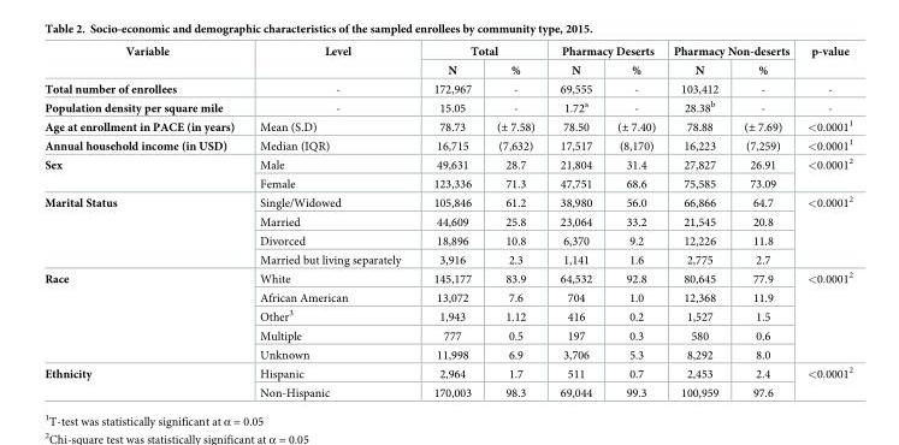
<table><thead><tr><td rowspan="2">Variable</td><td rowspan="2">Level</td><td colspan="2">Total</td><td colspan="2">Pharmacy Deserts</td><td colspan="2">Pharmacy Non-deserts</td><td rowspan="2">p-value</td></tr><tr><td>N</td><td>%</td><td>N</td><td>%</td><td>N</td><td>%</td></tr></thead><tbody><tr><td>Total number of enrollees</td><td>-</td><td>172,967</td><td>-</td><td>69,555</td><td>-</td><td>103,412</td><td>-</td><td>-</td></tr><tr><td>Population density per square mile</td><td>-</td><td>15.05</td><td>-</td><td>1.72<sup>a</sup></td><td>-</td><td>28.38<sup>b</sup></td><td>-</td><td>-</td></tr><tr><td>Age at enrollment in PACE (in years)</td><td>Mean (S.D)</td><td>78.73</td><td>(± 7.58)</td><td>78.50</td><td>(± 7.40)</td><td>78.88</td><td>(± 7.69)</td><td>&lt;0.0001<sup>1</sup></td></tr><tr><td>Annual household income (in USD)</td><td>Median (IQR)</td><td>16,715</td><td>(7,632)</td><td>17,517</td><td>(8,170)</td><td>16,223</td><td>(7,259)</td><td>&lt;0.0001<sup>1</sup></td></tr><tr><td rowspan="2">Sex</td><td>Male</td><td>49,631</td><td>28.7</td><td>21,804</td><td>31.4</td><td>27,827</td><td>26.91</td><td rowspan="2">&lt;0.0001<sup>2</sup></td></tr><tr><td>Female</td><td>123,336</td><td>71.3</td><td>47,751</td><td>68.6</td><td>75,585</td><td>73.09</td></tr><tr><td rowspan="4">Marital Status</td><td>Single/Widowed</td><td>105,846</td><td>61.2</td><td>38,980</td><td>56.0</td><td>66,866</td><td>64.7</td><td rowspan="4">&lt;0.0001<sup>2</sup></td></tr><tr><td>Married</td><td>44,609</td><td>25.8</td><td>23,064</td><td>33.2</td><td>21,545</td><td>20.8</td></tr><tr><td>Divorced</td><td>18,896</td><td>10.8</td><td>6,370</td><td>9.2</td><td>12,226</td><td>11.8</td></tr><tr><td>Married but living separately</td><td>3,916</td><td>2.3</td><td>1,141</td><td>1.6</td><td>2,775</td><td>2.7</td></tr><tr><td rowspan="5">Race</td><td>White</td><td>145,177</td><td>83.9</td><td>64,532</td><td>92.8</td><td>80,645</td><td>77.9</td><td rowspan="5">&lt;0.0001<sup>2</sup></td></tr><tr><td>African American</td><td>13,072</td><td>7.6</td><td>704</td><td>1.0</td><td>12,368</td><td>11.9</td></tr><tr><td>Other<sup>3</sup></td><td>1,943</td><td>1.12</td><td>416</td><td>0.2</td><td>1,527</td><td>1.5</td></tr><tr><td>Multiple</td><td>777</td><td>0.5</td><td>197</td><td>0.3</td><td>580</td><td>0.6</td></tr><tr><td>Unknown</td><td>11,998</td><td>6.9</td><td>3,706</td><td>5.3</td><td>8,292</td><td>8.0</td></tr><tr><td rowspan="2">Ethnicity</td><td>Hispanic</td><td>2,964</td><td>1.7</td><td>511</td><td>0.7</td><td>2,453</td><td>2.4</td><td rowspan="2">&lt;0.0001<sup>2</sup></td></tr><tr><td>Non-Hispanic</td><td>170,003</td><td>98.3</td><td>69,044</td><td>99.3</td><td>100,959</td><td>97.6</td></tr></tbody></table>